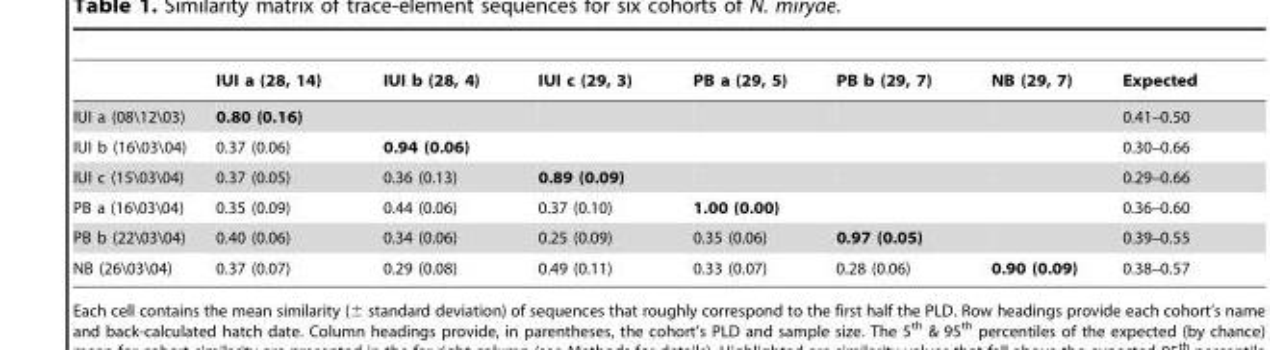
<table><thead><tr><td></td><td>IUI a (28, 14)</td><td>IUI b (28, 4)</td><td>IUI c (29, 3)</td><td>PB a (29, 5)</td><td>PB b (29, 7)</td><td>NB (29, 7)</td><td>Expected</td></tr></thead><tbody><tr><td>IUI a (08\12\03)</td><td>0.80 (0.16)</td><td></td><td></td><td></td><td></td><td></td><td>0.41–0.50</td></tr><tr><td>IUI b (16\03\04)</td><td>0.37 (0.06)</td><td>0.94 (0.06)</td><td></td><td></td><td></td><td></td><td>0.30–0.66</td></tr><tr><td>IUI c (15\03\04)</td><td>0.37 (0.05)</td><td>0.36 (0.13)</td><td>0.89 (0.09)</td><td></td><td></td><td></td><td>0.29–0.66</td></tr><tr><td>PB a (16\03\04)</td><td>0.35 (0.09)</td><td>0.44 (0.06)</td><td>0.37 (0.10)</td><td>1.00 (0.00)</td><td></td><td></td><td>0.36–0.60</td></tr><tr><td>PB b (22\03\04)</td><td>0.40 (0.06)</td><td>0.34 (0.06)</td><td>0.25 (0.09)</td><td>0.35 (0.06)</td><td>0.97 (0.05)</td><td></td><td>0.39–0.55</td></tr><tr><td>NB (26\03\04)</td><td>0.37 (0.07)</td><td>0.29 (0.08)</td><td>0.49 (0.11)</td><td>0.33 (0.07)</td><td>0.28 (0.06)</td><td>0.90 (0.09)</td><td>0.38–0.57</td></tr></tbody></table>